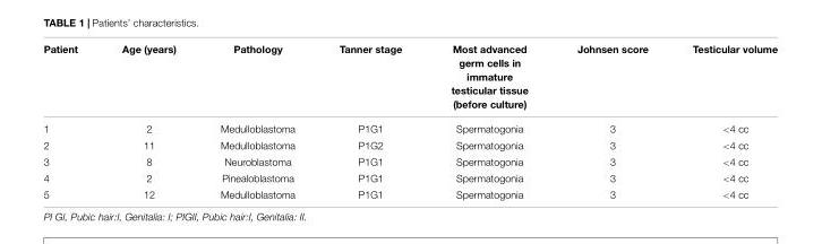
<table><thead><tr><td>Patient</td><td>Age (years)</td><td>Pathology</td><td>Tanner stage</td><td>Most advanced germ cells in immature testicular tissue (before culture)</td><td>Johnsen score</td><td>Testicular volume</td></tr></thead><tbody><tr><td>1</td><td>2</td><td>Medulloblastoma</td><td>P1G1</td><td>Spermatogonia</td><td>3</td><td>&lt;4 cc</td></tr><tr><td>2</td><td>11</td><td>Medulloblastoma</td><td>P1G2</td><td>Spermatogonia</td><td>3</td><td>&lt;4 cc</td></tr><tr><td>3</td><td>8</td><td>Neuroblastoma</td><td>P1G1</td><td>Spermatogonia</td><td>3</td><td>&lt;4 cc</td></tr><tr><td>4</td><td>2</td><td>Pinealoblastoma</td><td>P1G1</td><td>Spermatogonia</td><td>3</td><td>&lt;4 cc</td></tr><tr><td>5</td><td>12</td><td>Medulloblastoma</td><td>P1G1</td><td>Spermatogonia</td><td>3</td><td>&lt;4 cc</td></tr></tbody></table>